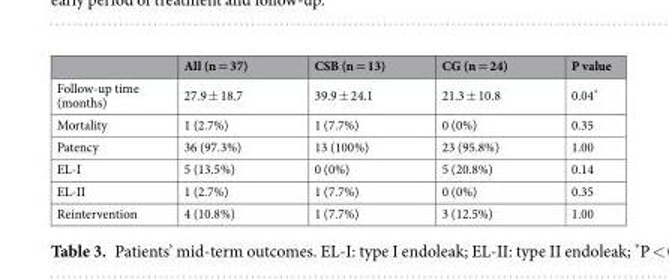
<table><thead><tr><td></td><td>All (n = 37)</td><td>CSB (n = 13)</td><td>CG (n = 24)</td><td>P value</td></tr></thead><tbody><tr><td>Follow-up time (months)</td><td>27.9 ± 18.7</td><td>39.9 ± 24.1</td><td>21.3 ± 10.8</td><td>0.04*</td></tr><tr><td>Mortality</td><td>1 (2.7%)</td><td>1 (7.7%)</td><td>0 (0%)</td><td>0.35</td></tr><tr><td>Patency</td><td>36 (97.3%)</td><td>13 (100%)</td><td>23 (95.8%)</td><td>1.00</td></tr><tr><td>EL-I</td><td>5 (13.5%)</td><td>0 (0%)</td><td>5 (20.8%)</td><td>0.14</td></tr><tr><td>EL-II</td><td>1 (2.7%)</td><td>1 (7.7%)</td><td>0 (0%)</td><td>0.35</td></tr><tr><td>Reintervention</td><td>4 (10.8%)</td><td>1 (7.7%)</td><td>3 (12.5%)</td><td>1.00</td></tr></tbody></table>